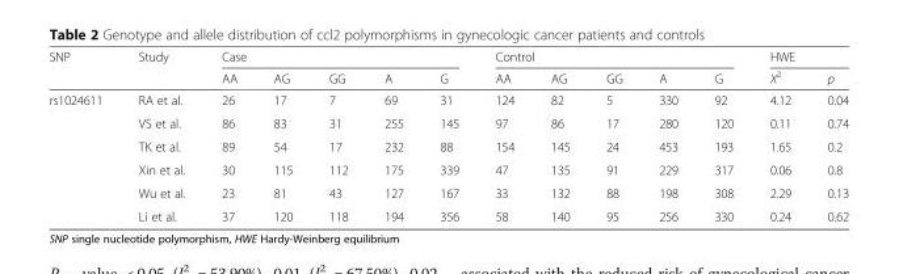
<table><thead><tr><td rowspan="2">SNP</td><td rowspan="2">Study</td><td colspan="5">Case</td><td colspan="5">Control</td><td colspan="2">HWE</td></tr><tr><td>AA</td><td>AG</td><td>GG</td><td>A</td><td>G</td><td>AA</td><td>AG</td><td>GG</td><td>A</td><td>G</td><td>X<sup>2</sup></td><td>p</td></tr></thead><tbody><tr><td rowspan="6">rs1024611</td><td>RA et al.</td><td>26</td><td>17</td><td>7</td><td>69</td><td>31</td><td>124</td><td>82</td><td>5</td><td>330</td><td>92</td><td>4.12</td><td>0.04</td></tr><tr><td>VS et al.</td><td>86</td><td>83</td><td>31</td><td>255</td><td>145</td><td>97</td><td>86</td><td>17</td><td>280</td><td>120</td><td>0.11</td><td>0.74</td></tr><tr><td>TK et al.</td><td>89</td><td>54</td><td>17</td><td>232</td><td>88</td><td>154</td><td>145</td><td>24</td><td>453</td><td>193</td><td>1.65</td><td>0.2</td></tr><tr><td>Xin et al.</td><td>30</td><td>115</td><td>112</td><td>175</td><td>339</td><td>47</td><td>135</td><td>91</td><td>229</td><td>317</td><td>0.06</td><td>0.8</td></tr><tr><td>Wu et al.</td><td>23</td><td>81</td><td>43</td><td>127</td><td>167</td><td>33</td><td>132</td><td>88</td><td>198</td><td>308</td><td>2.29</td><td>0.13</td></tr><tr><td>Li et al.</td><td>37</td><td>120</td><td>118</td><td>194</td><td>356</td><td>58</td><td>140</td><td>95</td><td>256</td><td>330</td><td>0.24</td><td>0.62</td></tr></tbody></table>